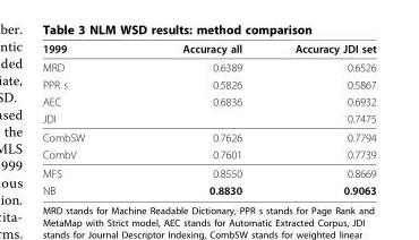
<table><thead><tr><td>1999</td><td>Accuracy all</td><td>Accuracy JDI set</td></tr></thead><tbody><tr><td>MRD</td><td>0.6389</td><td>0.6526</td></tr><tr><td>PPR s</td><td>0.5826</td><td>0.5867</td></tr><tr><td>AEC</td><td>0.6836</td><td>0.6932</td></tr><tr><td>JDI</td><td></td><td>0.7475</td></tr><tr><td>CombSW</td><td>0.7626</td><td>0.7794</td></tr><tr><td>CombV</td><td>0.7601</td><td>0.7739</td></tr><tr><td>MFS</td><td>0.8550</td><td>0.8669</td></tr><tr><td>NB</td><td>0.8830</td><td>0.9063</td></tr></tbody></table>